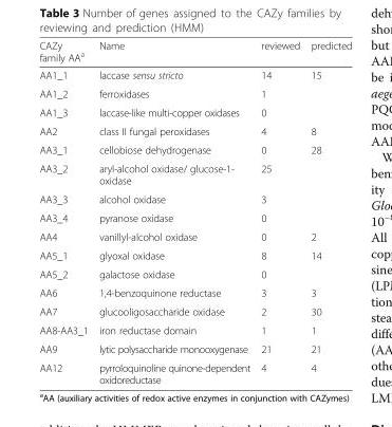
<table><thead><tr><td>CAZy family AA<sup>a</sup></td><td>Name</td><td>reviewed</td><td>predicted</td></tr></thead><tbody><tr><td>AA1_1</td><td>laccase sensu stricto</td><td>14</td><td rowspan="3">15</td></tr><tr><td>AA1_2</td><td>ferroxidases</td><td>1</td></tr><tr><td>AA1_3</td><td>laccase-like multi-copper oxidases</td><td>0</td></tr><tr><td>AA2</td><td>class II fungal peroxidases</td><td>4</td><td>8</td></tr><tr><td>AA3_1</td><td>cellobiose dehydrogenase</td><td>0</td><td rowspan="4">28</td></tr><tr><td>AA3_2</td><td>aryl-alcohol oxidase/ glucose-1- oxidase</td><td>25</td></tr><tr><td>AA3_3</td><td>alcohol oxidase</td><td>3</td></tr><tr><td>AA3_4</td><td>pyranose oxidase</td><td>0</td></tr><tr><td>AA4</td><td>vanillyl-alcohol oxidase</td><td>0</td><td>2</td></tr><tr><td>AA5_1</td><td>glyoxal oxidase</td><td>8</td><td rowspan="2">14</td></tr><tr><td>AA5_2</td><td>galactose oxidase</td><td>0</td></tr><tr><td>AA6</td><td>1,4-benzoquinone reductase</td><td>3</td><td>3</td></tr><tr><td>AA7</td><td>glucooligosaccharide oxidase</td><td>2</td><td>30</td></tr><tr><td>AA8-AA3_1</td><td>iron reductase domain</td><td>1</td><td>1</td></tr><tr><td>AA9</td><td>lytic polysaccharide monooxygenase</td><td>21</td><td>21</td></tr><tr><td>AA12</td><td>pyrroloquinoline quinone-dependent oxidoreductase</td><td>4</td><td>4</td></tr></tbody></table>